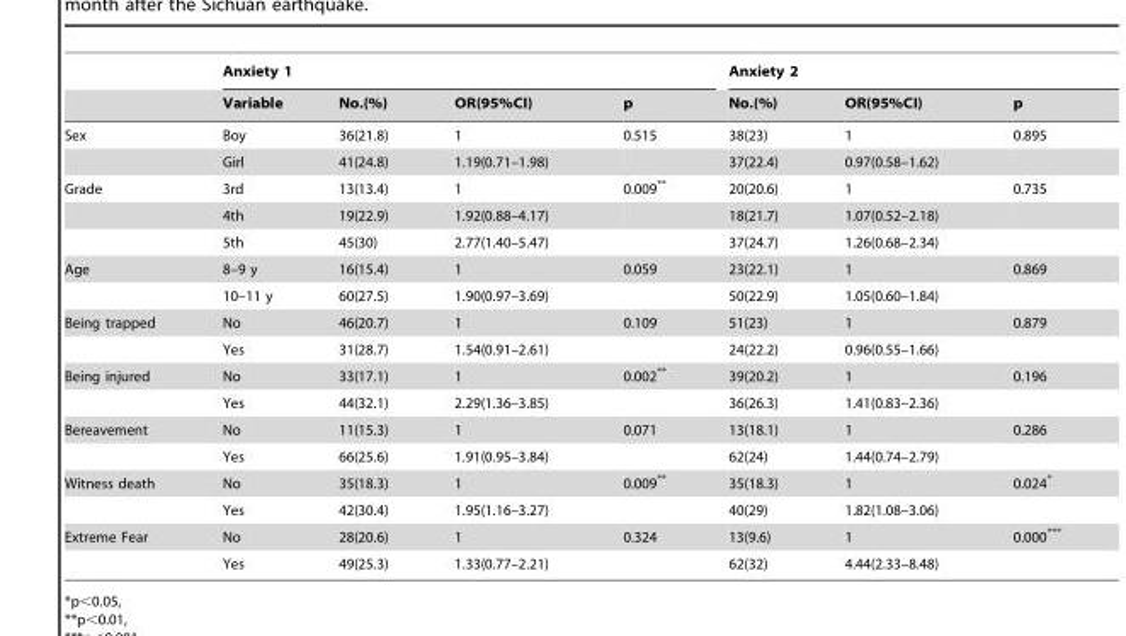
<table><thead><tr><td rowspan="2"></td><td colspan="4">Anxiety 1</td><td colspan="3">Anxiety 2</td></tr><tr><td>Variable</td><td>No.(%)</td><td>OR(95%CI)</td><td>p</td><td>No.(%)</td><td>OR(95%CI)</td><td>p</td></tr></thead><tbody><tr><td rowspan="2">Sex</td><td>Boy</td><td>36(21.8)</td><td>1</td><td>0.515</td><td>38(23)</td><td>1</td><td>0.895</td></tr><tr><td>Girl</td><td>41(24.8)</td><td>1.19(0.71–1.98)</td><td></td><td>37(22.4)</td><td>0.97(0.58–1.62)</td><td></td></tr><tr><td rowspan="3">Grade</td><td>3rd</td><td>13(13.4)</td><td>1</td><td>0.009**</td><td>20(20.6)</td><td>1</td><td>0.735</td></tr><tr><td>4th</td><td>19(22.9)</td><td>1.92(0.88–4.17)</td><td></td><td>18(21.7)</td><td>1.07(0.52–2.18)</td><td></td></tr><tr><td>5th</td><td>45(30)</td><td>2.77(1.40–5.47)</td><td></td><td>37(24.7)</td><td>1.26(0.68–2.34)</td><td></td></tr><tr><td rowspan="2">Age</td><td>8–9 y</td><td>16(15.4)</td><td>1</td><td>0.059</td><td>23(22.1)</td><td>1</td><td>0.869</td></tr><tr><td>10–11 y</td><td>60(27.5)</td><td>1.90(0.97–3.69)</td><td></td><td>50(22.9)</td><td>1.05(0.60–1.84)</td><td></td></tr><tr><td rowspan="2">Being trapped</td><td>No</td><td>46(20.7)</td><td>1</td><td>0.109</td><td>51(23)</td><td>1</td><td>0.879</td></tr><tr><td>Yes</td><td>31(28.7)</td><td>1.54(0.91–2.61)</td><td></td><td>24(22.2)</td><td>0.96(0.55–1.66)</td><td></td></tr><tr><td rowspan="2">Being injured</td><td>No</td><td>33(17.1)</td><td>1</td><td>0.002**</td><td>39(20.2)</td><td>1</td><td>0.196</td></tr><tr><td>Yes</td><td>44(32.1)</td><td>2.29(1.36–3.85)</td><td></td><td>36(26.3)</td><td>1.41(0.83–2.36)</td><td></td></tr><tr><td rowspan="2">Bereavement</td><td>No</td><td>11(15.3)</td><td>1</td><td>0.071</td><td>13(18.1)</td><td>1</td><td>0.286</td></tr><tr><td>Yes</td><td>66(25.6)</td><td>1.91(0.95–3.84)</td><td></td><td>62(24)</td><td>1.44(0.74–2.79)</td><td></td></tr><tr><td rowspan="2">Witness death</td><td>No</td><td>35(18.3)</td><td>1</td><td>0.009**</td><td>35(18.3)</td><td>1</td><td>0.024*</td></tr><tr><td>Yes</td><td>42(30.4)</td><td>1.95(1.16–3.27)</td><td></td><td>40(29)</td><td>1.82(1.08–3.06)</td><td></td></tr><tr><td rowspan="2">Extreme Fear</td><td>No</td><td>28(20.6)</td><td>1</td><td>0.324</td><td>13(9.6)</td><td>1</td><td>0.000***</td></tr><tr><td>Yes</td><td>49(25.3)</td><td>1.33(0.77–2.21)</td><td></td><td>62(32)</td><td>4.44(2.33–8.48)</td><td></td></tr></tbody></table>